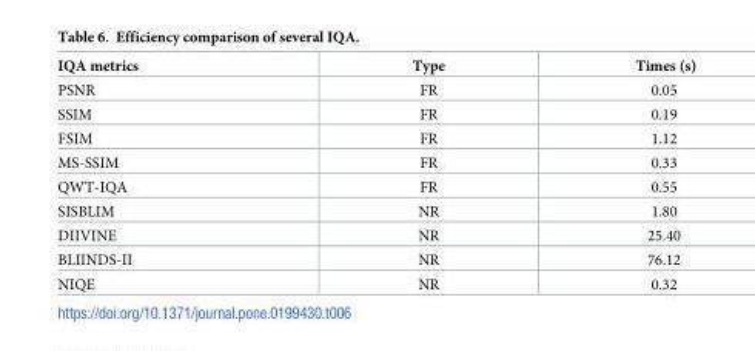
<table><thead><tr><td>IQA metrics</td><td>Type</td><td>Times (s)</td></tr></thead><tbody><tr><td>PSNR</td><td>FR</td><td>0.05</td></tr><tr><td>SSIM</td><td>FR</td><td>0.19</td></tr><tr><td>FSIM</td><td>FR</td><td>1.12</td></tr><tr><td>MS-SSIM</td><td>FR</td><td>0.33</td></tr><tr><td>QWT-IQA</td><td>FR</td><td>0.55</td></tr><tr><td>SISBLIM</td><td>NR</td><td>1.80</td></tr><tr><td>DIIVINE</td><td>NR</td><td>25.40</td></tr><tr><td>BLIINDS-II</td><td>NR</td><td>76.12</td></tr><tr><td>NIQE</td><td>NR</td><td>0.32</td></tr></tbody></table>